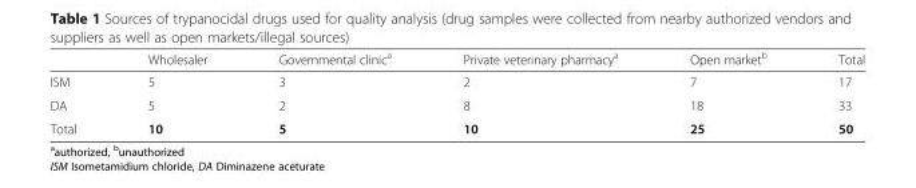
<table><thead><tr><td></td><td>Wholesaler</td><td>Governmental clinic<sup>a</sup></td><td>Private veterinary pharmacy<sup>a</sup></td><td>Open market<sup>b</sup></td><td>Total</td></tr></thead><tbody><tr><td>ISM</td><td>5</td><td>3</td><td>2</td><td>7</td><td>17</td></tr><tr><td>DA</td><td>5</td><td>2</td><td>8</td><td>18</td><td>33</td></tr><tr><td>Total</td><td>10</td><td>5</td><td>10</td><td>25</td><td>50</td></tr></tbody></table>